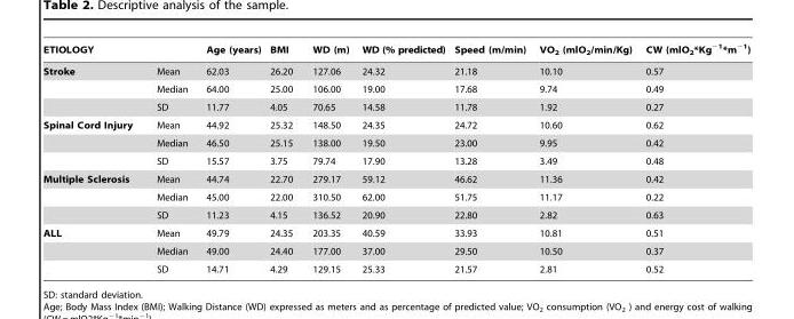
<table><thead><tr><td>ETIOLOGY</td><td></td><td>Age (years)</td><td>BMI</td><td>WD (m)</td><td>WD (% predicted)</td><td>Speed (m/min)</td><td>VO<sub>2</sub> (mlO<sub>2</sub>/min/Kg)</td><td>CW (mlO<sub>2</sub>*Kg<sup>−1</sup>*m<sup>−1</sup>)</td></tr></thead><tbody><tr><td rowspan="3">Stroke</td><td>Mean</td><td>62.03</td><td>26.20</td><td>127.06</td><td>24.32</td><td>21.18</td><td>10.10</td><td>0.57</td></tr><tr><td>Median</td><td>64.00</td><td>25.00</td><td>106.00</td><td>19.00</td><td>17.68</td><td>9.74</td><td>0.49</td></tr><tr><td>SD</td><td>11.77</td><td>4.05</td><td>70.65</td><td>14.58</td><td>11.78</td><td>1.92</td><td>0.27</td></tr><tr><td rowspan="3">Spinal Cord Injury</td><td>Mean</td><td>44.92</td><td>25.32</td><td>148.50</td><td>24.35</td><td>24.72</td><td>10.60</td><td>0.62</td></tr><tr><td>Median</td><td>46.50</td><td>25.15</td><td>138.00</td><td>19.50</td><td>23.00</td><td>9.95</td><td>0.42</td></tr><tr><td>SD</td><td>15.57</td><td>3.75</td><td>79.74</td><td>17.90</td><td>13.28</td><td>3.49</td><td>0.48</td></tr><tr><td rowspan="3">Multiple Sclerosis</td><td>Mean</td><td>44.74</td><td>22.70</td><td>279.17</td><td>59.12</td><td>46.62</td><td>11.36</td><td>0.42</td></tr><tr><td>Median</td><td>45.00</td><td>22.00</td><td>310.50</td><td>62.00</td><td>51.75</td><td>11.17</td><td>0.22</td></tr><tr><td>SD</td><td>11.23</td><td>4.15</td><td>136.52</td><td>20.90</td><td>22.80</td><td>2.82</td><td>0.63</td></tr><tr><td rowspan="3">ALL</td><td>Mean</td><td>49.79</td><td>24.35</td><td>203.35</td><td>40.59</td><td>33.93</td><td>10.81</td><td>0.51</td></tr><tr><td>Median</td><td>49.00</td><td>24.40</td><td>177.00</td><td>37.00</td><td>29.50</td><td>10.50</td><td>0.37</td></tr><tr><td>SD</td><td>14.71</td><td>4.29</td><td>129.15</td><td>25.33</td><td>21.57</td><td>2.81</td><td>0.52</td></tr></tbody></table>